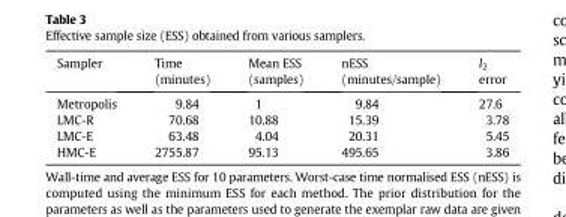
<table><thead><tr><td>Sampler</td><td>Time (minutes)</td><td>Mean ESS (samples)</td><td>nESS (minutes/sample)</td><td>l<sub>2</sub> error</td></tr></thead><tbody><tr><td>Metropolis</td><td>9.84</td><td>1</td><td>9.84</td><td>27.6</td></tr><tr><td>LMC-R</td><td>70.68</td><td>10.88</td><td>15.39</td><td>3.78</td></tr><tr><td>LMC-E</td><td>63.48</td><td>4.04</td><td>20.31</td><td>5.45</td></tr><tr><td>HMC-E</td><td>2755.87</td><td>95.13</td><td>495.65</td><td>3.86</td></tr></tbody></table>